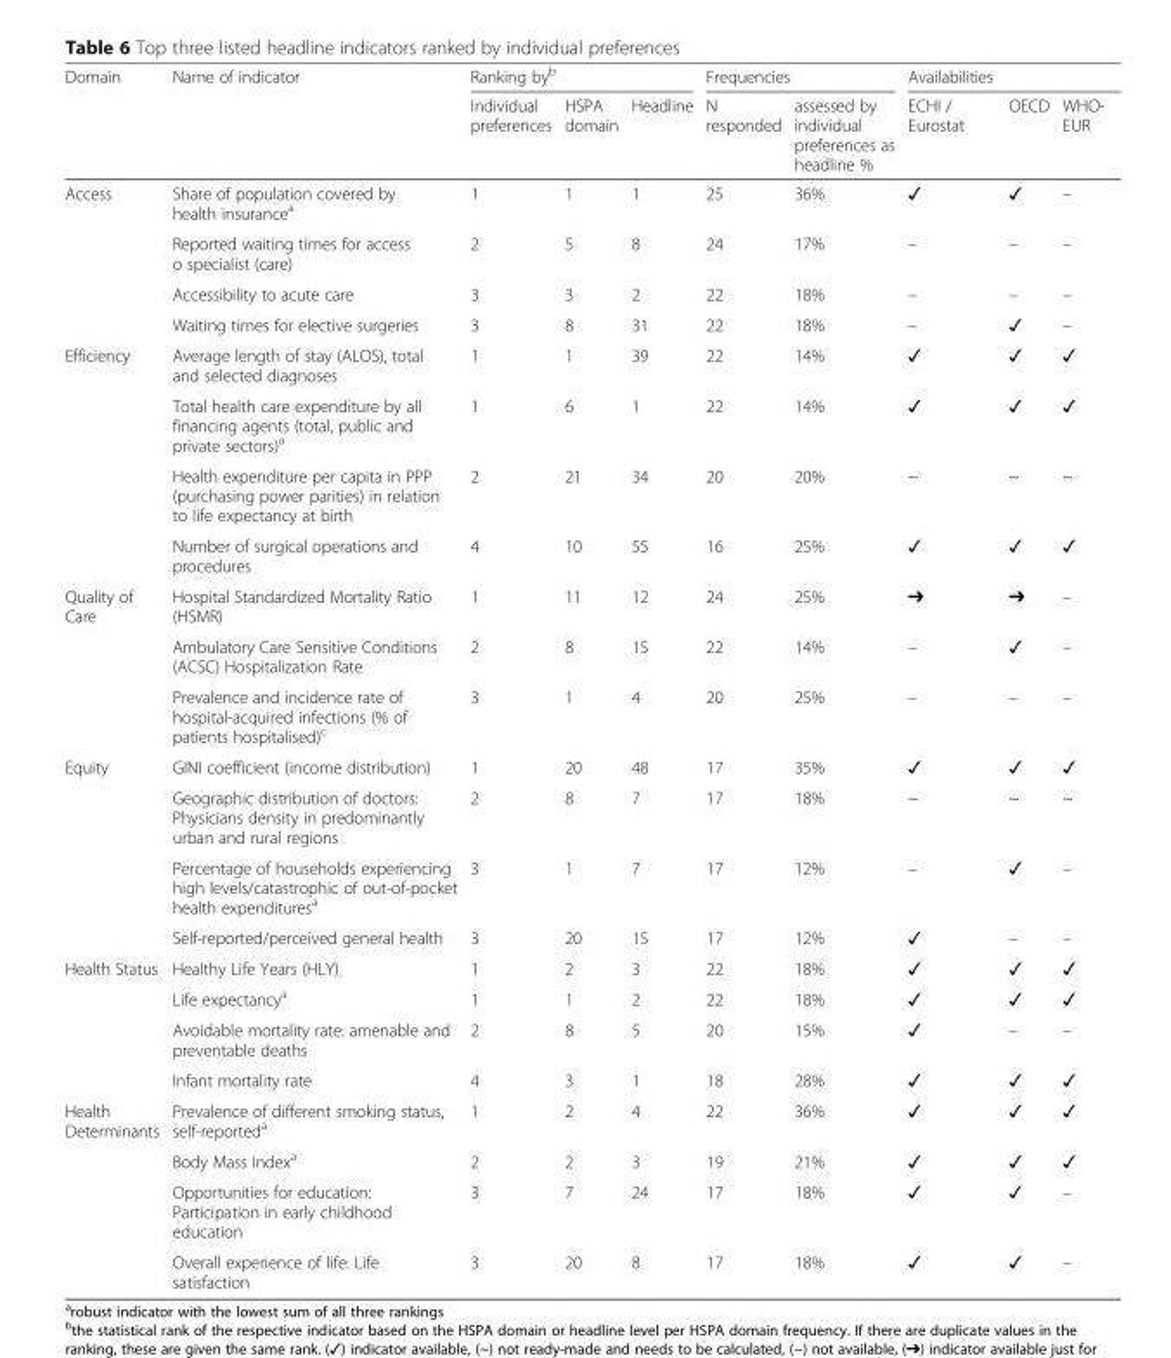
<table><thead><tr><td rowspan="2">Domain</td><td rowspan="2">Name of indicator</td><td colspan="3">Ranking by<sup>b</sup></td><td colspan="2">Frequencies</td><td colspan="3">Availabilities</td></tr><tr><td>Individual preferences</td><td>HSPA domain</td><td>Headline</td><td>N responded</td><td>assessed by individual preferences as headline %</td><td>ECHI / Eurostat</td><td>OECD</td><td>WHO- EUR</td></tr></thead><tbody><tr><td rowspan="4">Access</td><td>Share of population covered by health insurance<sup>a</sup></td><td>1</td><td>1</td><td>1</td><td>25</td><td>36%</td><td>✓</td><td>✓</td><td>–</td></tr><tr><td>Reported waiting times for access o specialist (care)</td><td>2</td><td>5</td><td>8</td><td>24</td><td>17%</td><td>–</td><td>–</td><td>–</td></tr><tr><td>Accessibility to acute care</td><td>3</td><td>3</td><td>2</td><td>22</td><td>18%</td><td>–</td><td>–</td><td>–</td></tr><tr><td>Waiting times for elective surgeries</td><td>3</td><td>8</td><td>31</td><td>22</td><td>18%</td><td>–</td><td>✓</td><td>–</td></tr><tr><td rowspan="4">Efficiency</td><td>Average length of stay (ALOS), total and selected diagnoses</td><td>1</td><td>1</td><td>39</td><td>22</td><td>14%</td><td>✓</td><td>✓</td><td>✓</td></tr><tr><td>Total health care expenditure by all financing agents (total, public and private sectors)<sup>a</sup></td><td>1</td><td>6</td><td>1</td><td>22</td><td>14%</td><td>✓</td><td>✓</td><td>✓</td></tr><tr><td>Health expenditure per capita in PPP (purchasing power parities) in relation to life expectancy at birth</td><td>2</td><td>21</td><td>34</td><td>20</td><td>20%</td><td>~</td><td>~</td><td>~</td></tr><tr><td>Number of surgical operations and procedures</td><td>4</td><td>10</td><td>55</td><td>16</td><td>25%</td><td>✓</td><td>✓</td><td>✓</td></tr><tr><td rowspan="3">Quality of Care</td><td>Hospital Standardized Mortality Ratio (HSMR)</td><td>1</td><td>11</td><td>12</td><td>24</td><td>25%</td><td>➔</td><td>➔</td><td>–</td></tr><tr><td>Ambulatory Care Sensitive Conditions (ACSC) Hospitalization Rate</td><td>2</td><td>8</td><td>15</td><td>22</td><td>14%</td><td>–</td><td>✓</td><td>–</td></tr><tr><td>Prevalence and incidence rate of hospital-acquired infections (% of patients hospitalised)<sup>c</sup></td><td>3</td><td>1</td><td>4</td><td>20</td><td>25%</td><td>–</td><td>–</td><td>–</td></tr><tr><td rowspan="4">Equity</td><td>GINI coefficient (income distribution)</td><td>1</td><td>20</td><td>48</td><td>17</td><td>35%</td><td>✓</td><td>✓</td><td>✓</td></tr><tr><td>Geographic distribution of doctors: Physicians density in predominantly urban and rural regions</td><td>2</td><td>8</td><td>7</td><td>17</td><td>18%</td><td>~</td><td>~</td><td>~</td></tr><tr><td>Percentage of households experiencing high levels/catastrophic of out-of-pocket health expenditures<sup>a</sup></td><td>3</td><td>1</td><td>7</td><td>17</td><td>12%</td><td>–</td><td>✓</td><td>–</td></tr><tr><td>Self-reported/perceived general health</td><td>3</td><td>20</td><td>15</td><td>17</td><td>12%</td><td>✓</td><td>–</td><td>–</td></tr><tr><td rowspan="4">Health Status</td><td>Healthy Life Years (HLY)</td><td>1</td><td>2</td><td>3</td><td>22</td><td>18%</td><td>✓</td><td>✓</td><td>✓</td></tr><tr><td>Life expectancy<sup>a</sup></td><td>1</td><td>1</td><td>2</td><td>22</td><td>18%</td><td>✓</td><td>✓</td><td>✓</td></tr><tr><td>Avoidable mortality rate: amenable and preventable deaths</td><td>2</td><td>8</td><td>5</td><td>20</td><td>15%</td><td>✓</td><td>–</td><td>–</td></tr><tr><td>Infant mortality rate</td><td>4</td><td>3</td><td>1</td><td>18</td><td>28%</td><td>✓</td><td>✓</td><td>✓</td></tr><tr><td rowspan="4">Health Determinants</td><td>Prevalence of different smoking status, self-reported<sup>a</sup></td><td>1</td><td>2</td><td>4</td><td>22</td><td>36%</td><td>✓</td><td>✓</td><td>✓</td></tr><tr><td>Body Mass Index<sup>a</sup></td><td>2</td><td>2</td><td>3</td><td>19</td><td>21%</td><td>✓</td><td>✓</td><td>✓</td></tr><tr><td>Opportunities for education: Participation in early childhood education</td><td>3</td><td>7</td><td>24</td><td>17</td><td>18%</td><td>✓</td><td>✓</td><td>–</td></tr><tr><td>Overall experience of life: Life satisfaction</td><td>3</td><td>20</td><td>8</td><td>17</td><td>18%</td><td>✓</td><td>✓</td><td>–</td></tr></tbody></table>